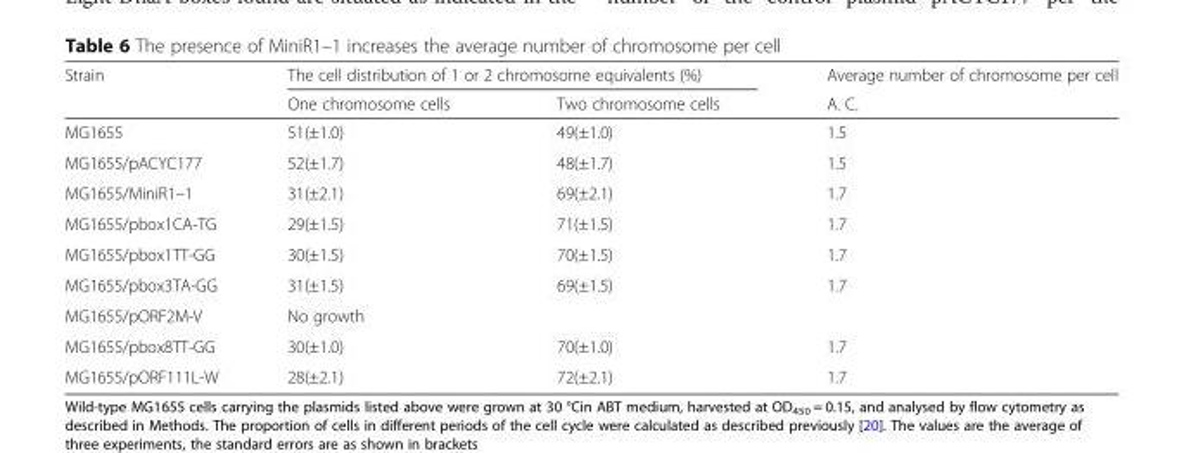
<table><thead><tr><td rowspan="2">Strain</td><td colspan="2">The cell distribution of 1 or 2 chromosome equivalents (%)</td><td rowspan="2">Average number of chromosome per cell A. C.</td></tr><tr><td>One chromosome cells</td><td>Two chromosome cells</td></tr></thead><tbody><tr><td>MG1655</td><td>51(±1.0)</td><td>49(±1.0)</td><td>1.5</td></tr><tr><td>MG1655/pACYC177</td><td>52(±1.7)</td><td>48(±1.7)</td><td>1.5</td></tr><tr><td>MG1655/MiniR1–1</td><td>31(±2.1)</td><td>69(±2.1)</td><td>1.7</td></tr><tr><td>MG1655/pbox1CA-TG</td><td>29(±1.5)</td><td>71(±1.5)</td><td>1.7</td></tr><tr><td>MG1655/pbox1TT-GG</td><td>30(±1.5)</td><td>70(±1.5)</td><td>1.7</td></tr><tr><td>MG1655/pbox3TA-GG</td><td>31(±1.5)</td><td>69(±1.5)</td><td>1.7</td></tr><tr><td>MG1655/pORF2M-V</td><td colspan="3">No growth</td></tr><tr><td>MG1655/pbox8TT-GG</td><td>30(±1.0)</td><td>70(±1.0)</td><td>1.7</td></tr><tr><td>MG1655/pORF111L-W</td><td>28(±2.1)</td><td>72(±2.1)</td><td>1.7</td></tr></tbody></table>